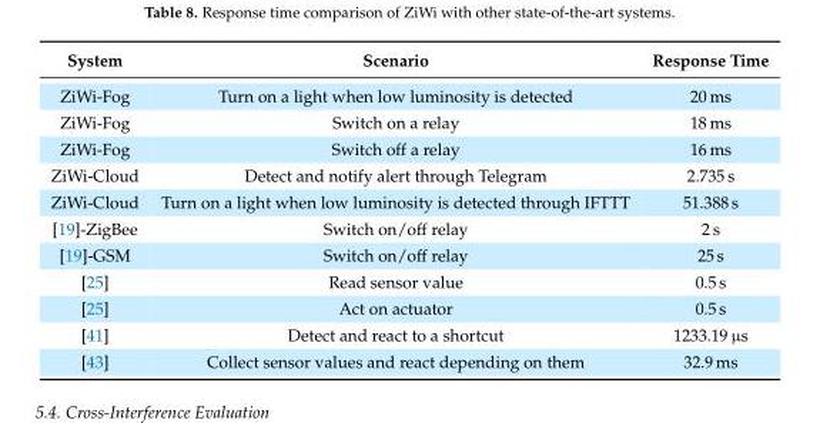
<table><thead><tr><td>System</td><td>Scenario</td><td>Response Time</td></tr></thead><tbody><tr><td>ZiWi-Fog</td><td>Turn on a light when low luminosity is detected</td><td>20 ms</td></tr><tr><td>ZiWi-Fog</td><td>Switch on a relay</td><td>18 ms</td></tr><tr><td>ZiWi-Fog</td><td>Switch off a relay</td><td>16 ms</td></tr><tr><td>ZiWi-Cloud</td><td>Detect and notify alert through Telegram</td><td>2.735 s</td></tr><tr><td>ZiWi-Cloud</td><td>Turn on a light when low luminosity is detected through IFTTT</td><td>51.388 s</td></tr><tr><td>[19]-ZigBee</td><td>Switch on/off relay</td><td>2 s</td></tr><tr><td>[19]-GSM</td><td>Switch on/off relay</td><td>25 s</td></tr><tr><td>[25]</td><td>Read sensor value</td><td>0.5 s</td></tr><tr><td>[25]</td><td>Act on actuator</td><td>0.5 s</td></tr><tr><td>[41]</td><td>Detect and react to a shortcut</td><td>1233.19 µs</td></tr><tr><td>[43]</td><td>Collect sensor values and react depending on them</td><td>32.9 ms</td></tr></tbody></table>